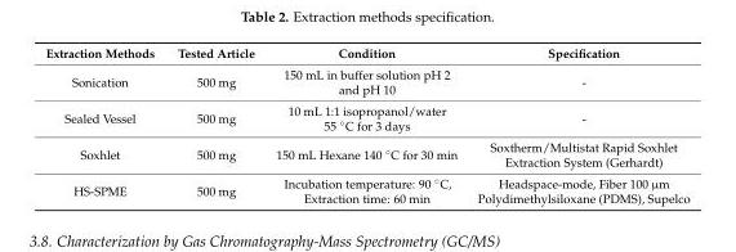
<table><thead><tr><td>Extraction Methods</td><td>Tested Article</td><td>Condition</td><td>Specification</td></tr></thead><tbody><tr><td>Sonication</td><td>500 mg</td><td>150 mL in buffer solution pH 2 and pH 10</td><td>-</td></tr><tr><td>Sealed Vessel</td><td>500 mg</td><td>10 mL 1:1 isopropanol/water 55 ◦C for 3 days</td><td>-</td></tr><tr><td>Soxhlet</td><td>500 mg</td><td>150 mL Hexane 140 ◦C for 30 min</td><td>Soxtherm/Multistat Rapid Soxhlet Extraction System (Gerhardt)</td></tr><tr><td>HS-SPME</td><td>500 mg</td><td>Incubation temperature: 90 ◦C, Extraction time: 60 min</td><td>Headspace-mode, Fiber 100 µm Polydimethylsiloxane (PDMS), Supelco</td></tr></tbody></table>